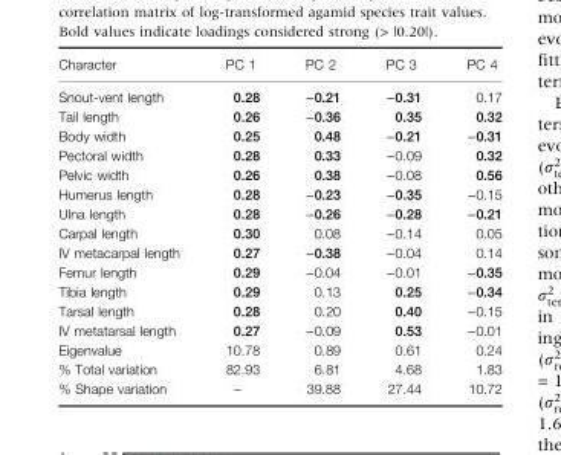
<table><thead><tr><td>Character</td><td>PC 1</td><td>PC 2</td><td>PC 3</td><td>PC 4</td></tr></thead><tbody><tr><td>Snout-vent length</td><td>0.28</td><td>−0.21</td><td>−0.31</td><td>0.17</td></tr><tr><td>Tail length</td><td>0.26</td><td>−0.36</td><td>0.35</td><td>0.32</td></tr><tr><td>Body width</td><td>0.25</td><td>0.48</td><td>−0.21</td><td>−0.31</td></tr><tr><td>Pectoral width</td><td>0.28</td><td>0.33</td><td>−0.09</td><td>0.32</td></tr><tr><td>Pelvic width</td><td>0.26</td><td>0.38</td><td>−0.08</td><td>0.56</td></tr><tr><td>Humerus length</td><td>0.28</td><td>−0.23</td><td>−0.35</td><td>−0.15</td></tr><tr><td>Ulna length</td><td>0.28</td><td>−0.26</td><td>−0.28</td><td>−0.21</td></tr><tr><td>Carpal length</td><td>0.30</td><td>0.08</td><td>−0.14</td><td>0.05</td></tr><tr><td>IV metacarpal length</td><td>0.27</td><td>−0.38</td><td>−0.04</td><td>0.14</td></tr><tr><td>Femur length</td><td>0.29</td><td>−0.04</td><td>−0.01</td><td>−0.35</td></tr><tr><td>Tibia length</td><td>0.29</td><td>0.13</td><td>0.25</td><td>−0.34</td></tr><tr><td>Tarsal length</td><td>0.28</td><td>0.20</td><td>0.40</td><td>−0.15</td></tr><tr><td>IV metatarsal length</td><td>0.27</td><td>−0.09</td><td>0.53</td><td>−0.01</td></tr><tr><td>Eigenvalue</td><td>10.78</td><td>0.89</td><td>0.61</td><td>0.24</td></tr><tr><td>% Total variation</td><td>82.93</td><td>6.81</td><td>4.68</td><td>1.83</td></tr><tr><td>% Shape variation</td><td>–</td><td>39.88</td><td>27.44</td><td>10.72</td></tr></tbody></table>